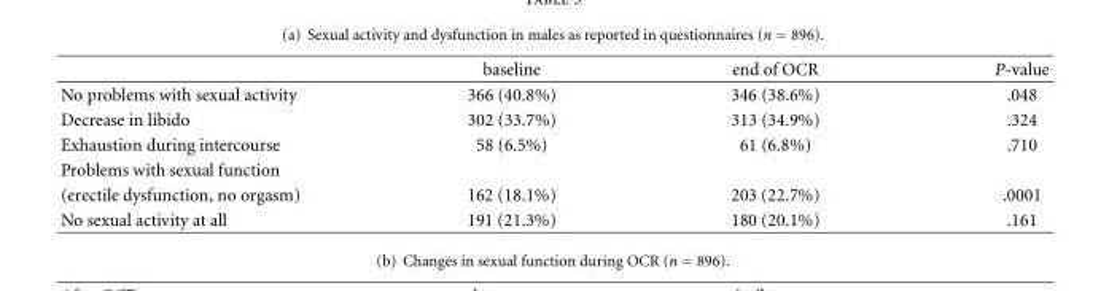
<table><thead><tr><td></td><td>baseline</td><td>end of OCR</td><td>P-value</td></tr></thead><tbody><tr><td>No problems with sexual activity</td><td>366 (40.8%)</td><td>346 (38.6%)</td><td>.048</td></tr><tr><td>Decrease in libido</td><td>302 (33.7%)</td><td>313 (34.9%)</td><td>.324</td></tr><tr><td>Exhaustion during intercourse</td><td>58 (6.5%)</td><td>61 (6.8%)</td><td>.710</td></tr><tr><td colspan="4">Problems with sexual function</td></tr><tr><td>(erectile dysfunction, no orgasm)</td><td>162 (18.1%)</td><td>203 (22.7%)</td><td>.0001</td></tr><tr><td>No sexual activity at all</td><td>191 (21.3%)</td><td>180 (20.1%)</td><td>.161</td></tr></tbody></table>